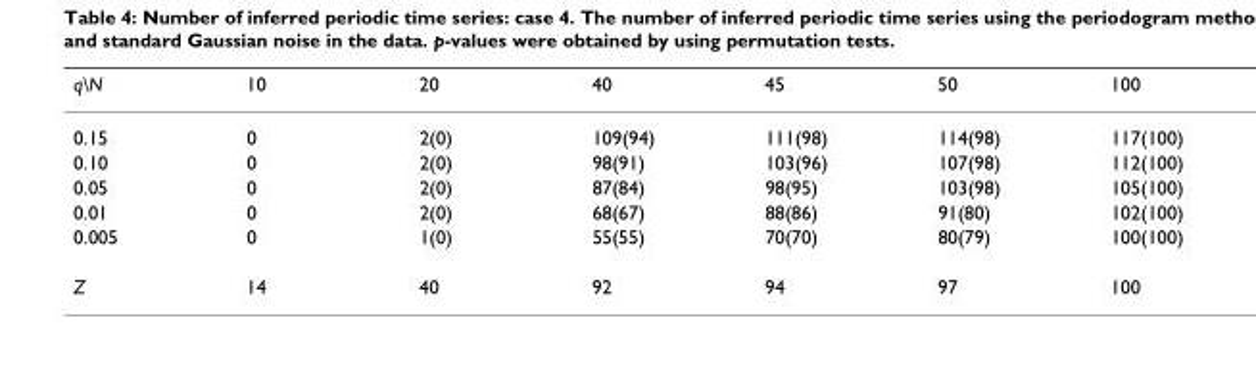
<table><thead><tr><td>q\N</td><td>10</td><td>20</td><td>40</td><td>45</td><td>50</td><td>100</td></tr></thead><tbody><tr><td>0.15</td><td>0</td><td>2(0)</td><td>109(94)</td><td>111(98)</td><td>114(98)</td><td>117(100)</td></tr><tr><td>0.10</td><td>0</td><td>2(0)</td><td>98(91)</td><td>103(96)</td><td>107(98)</td><td>112(100)</td></tr><tr><td>0.05</td><td>0</td><td>2(0)</td><td>87(84)</td><td>98(95)</td><td>103(98)</td><td>105(100)</td></tr><tr><td>0.01</td><td>0</td><td>2(0)</td><td>68(67)</td><td>88(86)</td><td>91(80)</td><td>102(100)</td></tr><tr><td>0.005</td><td>0</td><td>1(0)</td><td>55(55)</td><td>70(70)</td><td>80(79)</td><td>100(100)</td></tr><tr><td>Z</td><td>14</td><td>40</td><td>92</td><td>94</td><td>97</td><td>100</td></tr></tbody></table>